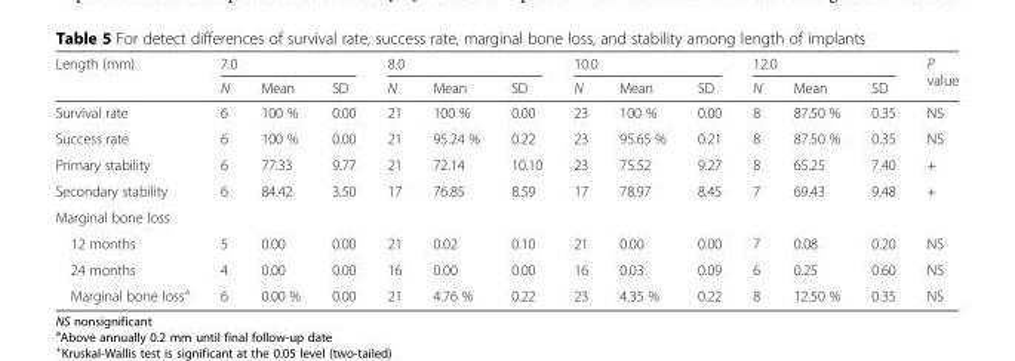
<table><thead><tr><td rowspan="2">Length (mm)</td><td colspan="3">7.0</td><td colspan="3">8.0</td><td colspan="3">10.0</td><td colspan="3">12.0</td><td rowspan="2">P value</td></tr><tr><td>N</td><td>Mean</td><td>SD</td><td>N</td><td>Mean</td><td>SD</td><td>N</td><td>Mean</td><td>SD</td><td>N</td><td>Mean</td><td>SD</td></tr></thead><tbody><tr><td>Survival rate</td><td>6</td><td>100 %</td><td>0.00</td><td>21</td><td>100 %</td><td>0.00</td><td>23</td><td>100 %</td><td>0.00</td><td>8</td><td>87.50 %</td><td>0.35</td><td>NS</td></tr><tr><td>Success rate</td><td>6</td><td>100 %</td><td>0.00</td><td>21</td><td>95.24 %</td><td>0.22</td><td>23</td><td>95.65 %</td><td>0.21</td><td>8</td><td>87.50 %</td><td>0.35</td><td>NS</td></tr><tr><td>Primary stability</td><td>6</td><td>77.33</td><td>9.77</td><td>21</td><td>72.14</td><td>10.10</td><td>23</td><td>75.52</td><td>9.27</td><td>8</td><td>65.25</td><td>7.40</td><td>+</td></tr><tr><td>Secondary stability</td><td>6</td><td>84.42</td><td>3.50</td><td>17</td><td>76.85</td><td>8.59</td><td>17</td><td>78.97</td><td>8.45</td><td>7</td><td>69.43</td><td>9.48</td><td>+</td></tr><tr><td colspan="14">Marginal bone loss</td></tr><tr><td>12 months</td><td>5</td><td>0.00</td><td>0.00</td><td>21</td><td>0.02</td><td>0.10</td><td>21</td><td>0.00</td><td>0.00</td><td>7</td><td>0.08</td><td>0.20</td><td>NS</td></tr><tr><td>24 months</td><td>4</td><td>0.00</td><td>0.00</td><td>16</td><td>0.00</td><td>0.00</td><td>16</td><td>0.03</td><td>0.09</td><td>6</td><td>0.25</td><td>0.60</td><td>NS</td></tr><tr><td>Marginal bone loss<sup>a</sup></td><td>6</td><td>0.00 %</td><td>0.00</td><td>21</td><td>4.76 %</td><td>0.22</td><td>23</td><td>4.35 %</td><td>0.22</td><td>8</td><td>12.50 %</td><td>0.35</td><td>NS</td></tr></tbody></table>